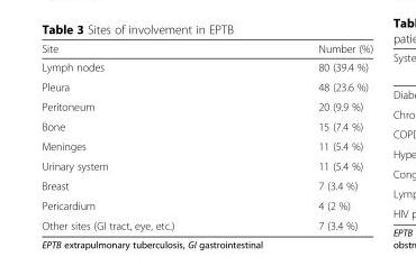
<table><thead><tr><td>Site</td><td>Number (%)</td></tr></thead><tbody><tr><td>Lymph nodes</td><td>80 (39.4 %)</td></tr><tr><td>Pleura</td><td>48 (23.6 %)</td></tr><tr><td>Peritoneum</td><td>20 (9.9 %)</td></tr><tr><td>Bone</td><td>15 (7.4 %)</td></tr><tr><td>Meninges</td><td>11 (5.4 %)</td></tr><tr><td>Urinary system</td><td>11 (5.4 %)</td></tr><tr><td>Breast</td><td>7 (3.4 %)</td></tr><tr><td>Pericardium</td><td>4 (2 %)</td></tr><tr><td>Other sites (GI tract, eye, etc.)</td><td>7 (3.4 %)</td></tr></tbody></table>